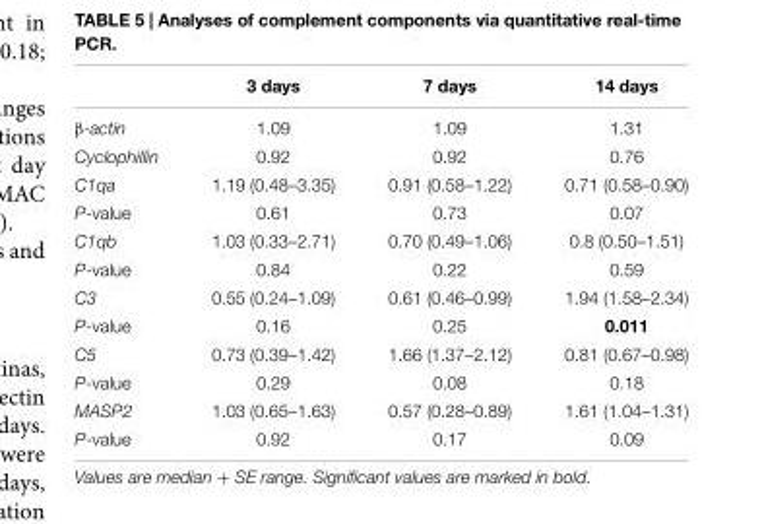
<table><thead><tr><td></td><td>3 days</td><td>7 days</td><td>14 days</td></tr></thead><tbody><tr><td>β-actin</td><td>1.09</td><td>1.09</td><td>1.31</td></tr><tr><td>Cyclophillin</td><td>0.92</td><td>0.92</td><td>0.76</td></tr><tr><td>C1qa</td><td>1.19 (0.48–3.35)</td><td>0.91 (0.58–1.22)</td><td>0.71 (0.58–0.90)</td></tr><tr><td>P-value</td><td>0.61</td><td>0.73</td><td>0.07</td></tr><tr><td>C1qb</td><td>1.03 (0.33–2.71)</td><td>0.70 (0.49–1.06)</td><td>0.8 (0.50–1.51)</td></tr><tr><td>P-value</td><td>0.84</td><td>0.22</td><td>0.59</td></tr><tr><td>C3</td><td>0.55 (0.24–1.09)</td><td>0.61 (0.46–0.99)</td><td>1.94 (1.58–2.34)</td></tr><tr><td>P-value</td><td>0.16</td><td>0.25</td><td>0.011</td></tr><tr><td>C5</td><td>0.73 (0.39–1.42)</td><td>1.66 (1.37–2.12)</td><td>0.81 (0.67–0.98)</td></tr><tr><td>P-value</td><td>0.29</td><td>0.08</td><td>0.18</td></tr><tr><td>MASP2</td><td>1.03 (0.65–1.63)</td><td>0.57 (0.28–0.89)</td><td>1.61 (1.04–1.31)</td></tr><tr><td>P-value</td><td>0.92</td><td>0.17</td><td>0.09</td></tr></tbody></table>